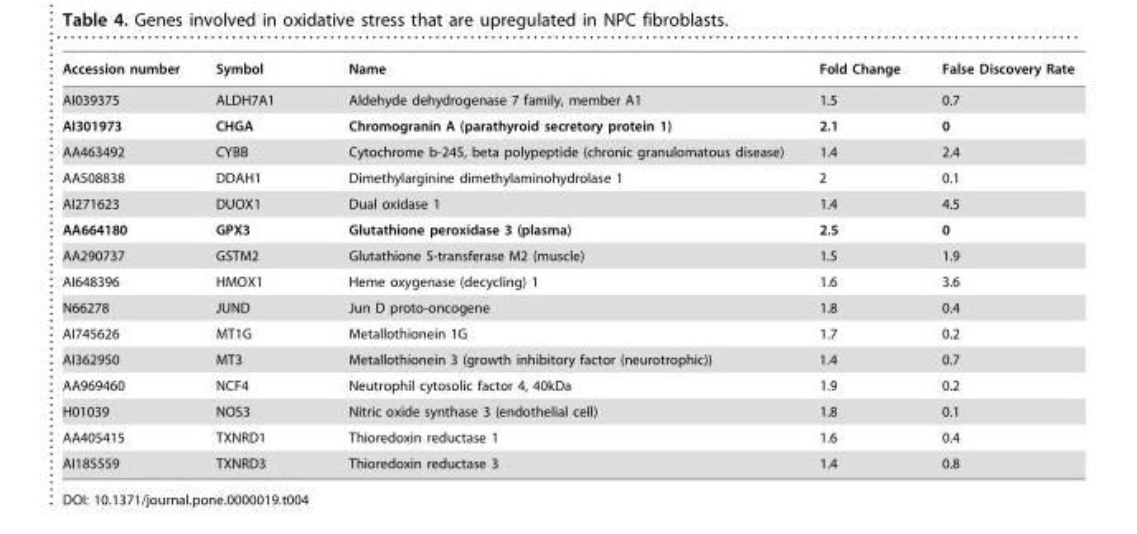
<table><thead><tr><td>Accession number</td><td>Symbol</td><td>Name</td><td>Fold Change</td><td>False Discovery Rate</td></tr></thead><tbody><tr><td>AI039375</td><td>ALDH7A1</td><td>Aldehyde dehydrogenase 7 family, member A1</td><td>1.5</td><td>0.7</td></tr><tr><td>AI301973</td><td>CHGA</td><td>Chromogranin A (parathyroid secretory protein 1)</td><td>2.1</td><td>0</td></tr><tr><td>AA463492</td><td>CYBB</td><td>Cytochrome b-245, beta polypeptide (chronic granulomatous disease)</td><td>1.4</td><td>2.4</td></tr><tr><td>AA508838</td><td>DDAH1</td><td>Dimethylarginine dimethylaminohydrolase 1</td><td>2</td><td>0.1</td></tr><tr><td>AI271623</td><td>DUOX1</td><td>Dual oxidase 1</td><td>1.4</td><td>4.5</td></tr><tr><td>AA664180</td><td>GPX3</td><td>Glutathione peroxidase 3 (plasma)</td><td>2.5</td><td>0</td></tr><tr><td>AA290737</td><td>GSTM2</td><td>Glutathione S-transferase M2 (muscle)</td><td>1.5</td><td>1.9</td></tr><tr><td>AI648396</td><td>HMOX1</td><td>Heme oxygenase (decycling) 1</td><td>1.6</td><td>3.6</td></tr><tr><td>N66278</td><td>JUND</td><td>Jun D proto-oncogene</td><td>1.8</td><td>0.4</td></tr><tr><td>AI745626</td><td>MT1G</td><td>Metallothionein 1G</td><td>1.7</td><td>0.2</td></tr><tr><td>AI362950</td><td>MT3</td><td>Metallothionein 3 (growth inhibitory factor (neurotrophic))</td><td>1.4</td><td>0.7</td></tr><tr><td>AA969460</td><td>NCF4</td><td>Neutrophil cytosolic factor 4, 40kDa</td><td>1.9</td><td>0.2</td></tr><tr><td>H01039</td><td>NOS3</td><td>Nitric oxide synthase 3 (endothelial cell)</td><td>1.8</td><td>0.1</td></tr><tr><td>AA405415</td><td>TXNRD1</td><td>Thioredoxin reductase 1</td><td>1.6</td><td>0.4</td></tr><tr><td>AI185559</td><td>TXNRD3</td><td>Thioredoxin reductase 3</td><td>1.4</td><td>0.8</td></tr></tbody></table>